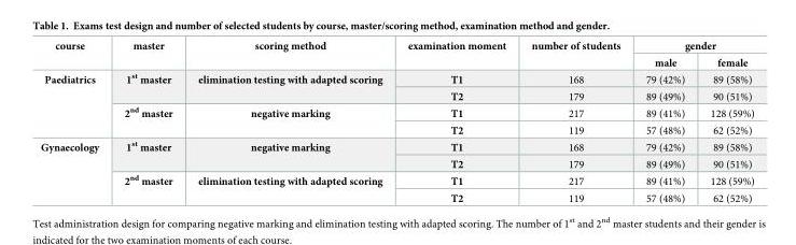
<table><thead><tr><td rowspan="2">course</td><td rowspan="2">master</td><td rowspan="2">scoring method</td><td rowspan="2">examination moment</td><td rowspan="2">number of students</td><td colspan="2">gender</td></tr><tr><td>male</td><td>female</td></tr></thead><tbody><tr><td rowspan="4">Paediatrics</td><td rowspan="2">1<sup>st</sup> master</td><td rowspan="2">elimination testing with adapted scoring</td><td>T1</td><td>168</td><td>79 (42%)</td><td>89 (58%)</td></tr><tr><td>T2</td><td>179</td><td>89 (49%)</td><td>90 (51%)</td></tr><tr><td rowspan="2">2<sup>nd</sup> master</td><td rowspan="2">negative marking</td><td>T1</td><td>217</td><td>89 (41%)</td><td>128 (59%)</td></tr><tr><td>T2</td><td>119</td><td>57 (48%)</td><td>62 (52%)</td></tr><tr><td rowspan="4">Gynaecology</td><td rowspan="2">1<sup>st</sup> master</td><td rowspan="2">negative marking</td><td>T1</td><td>168</td><td>79 (42%)</td><td>89 (58%)</td></tr><tr><td>T2</td><td>179</td><td>89 (49%)</td><td>90 (51%)</td></tr><tr><td rowspan="2">2<sup>nd</sup> master</td><td rowspan="2">elimination testing with adapted scoring</td><td>T1</td><td>217</td><td>89 (41%)</td><td>128 (59%)</td></tr><tr><td>T2</td><td>119</td><td>57 (48%)</td><td>62 (52%)</td></tr></tbody></table>